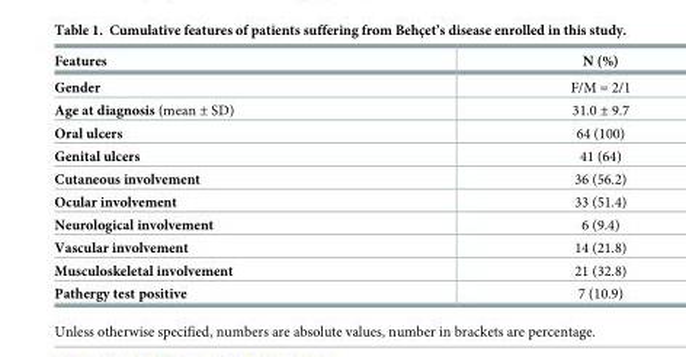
<table><thead><tr><td>Features</td><td>N (%)</td></tr></thead><tbody><tr><td>Gender</td><td>F/M = 2/1</td></tr><tr><td>Age at diagnosis (mean ± SD)</td><td>31.0 ± 9.7</td></tr><tr><td>Oral ulcers</td><td>64 (100)</td></tr><tr><td>Genital ulcers</td><td>41 (64)</td></tr><tr><td>Cutaneous involvement</td><td>36 (56.2)</td></tr><tr><td>Ocular involvement</td><td>33 (51.4)</td></tr><tr><td>Neurological involvement</td><td>6 (9.4)</td></tr><tr><td>Vascular involvement</td><td>14 (21.8)</td></tr><tr><td>Musculoskeletal involvement</td><td>21 (32.8)</td></tr><tr><td>Pathergy test positive</td><td>7 (10.9)</td></tr></tbody></table>